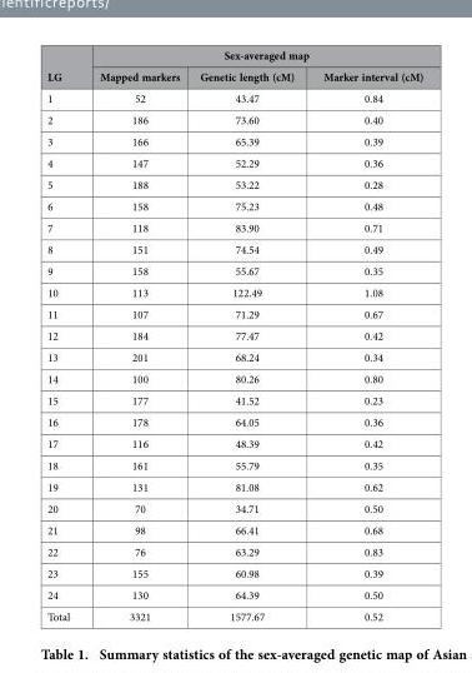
<table><thead><tr><td rowspan="2">LG</td><td colspan="3">Sex-averaged map</td></tr><tr><td>Mapped markers</td><td>Genetic length (cM)</td><td>Marker interval (cM)</td></tr></thead><tbody><tr><td>1</td><td>52</td><td>43.47</td><td>0.84</td></tr><tr><td>2</td><td>186</td><td>73.60</td><td>0.40</td></tr><tr><td>3</td><td>166</td><td>65.39</td><td>0.39</td></tr><tr><td>4</td><td>147</td><td>52.29</td><td>0.36</td></tr><tr><td>5</td><td>188</td><td>53.22</td><td>0.28</td></tr><tr><td>6</td><td>158</td><td>75.23</td><td>0.48</td></tr><tr><td>7</td><td>118</td><td>83.90</td><td>0.71</td></tr><tr><td>8</td><td>151</td><td>74.54</td><td>0.49</td></tr><tr><td>9</td><td>158</td><td>55.67</td><td>0.35</td></tr><tr><td>10</td><td>113</td><td>122.49</td><td>1.08</td></tr><tr><td>11</td><td>107</td><td>71.29</td><td>0.67</td></tr><tr><td>12</td><td>184</td><td>77.47</td><td>0.42</td></tr><tr><td>13</td><td>201</td><td>68.24</td><td>0.34</td></tr><tr><td>14</td><td>100</td><td>80.26</td><td>0.80</td></tr><tr><td>15</td><td>177</td><td>41.52</td><td>0.23</td></tr><tr><td>16</td><td>178</td><td>64.05</td><td>0.36</td></tr><tr><td>17</td><td>116</td><td>48.39</td><td>0.42</td></tr><tr><td>18</td><td>161</td><td>55.79</td><td>0.35</td></tr><tr><td>19</td><td>131</td><td>81.08</td><td>0.62</td></tr><tr><td>20</td><td>70</td><td>34.71</td><td>0.50</td></tr><tr><td>21</td><td>98</td><td>66.41</td><td>0.68</td></tr><tr><td>22</td><td>76</td><td>63.29</td><td>0.83</td></tr><tr><td>23</td><td>155</td><td>60.98</td><td>0.39</td></tr><tr><td>24</td><td>130</td><td>64.39</td><td>0.50</td></tr><tr><td>Total</td><td>3321</td><td>1577.67</td><td>0.52</td></tr></tbody></table>